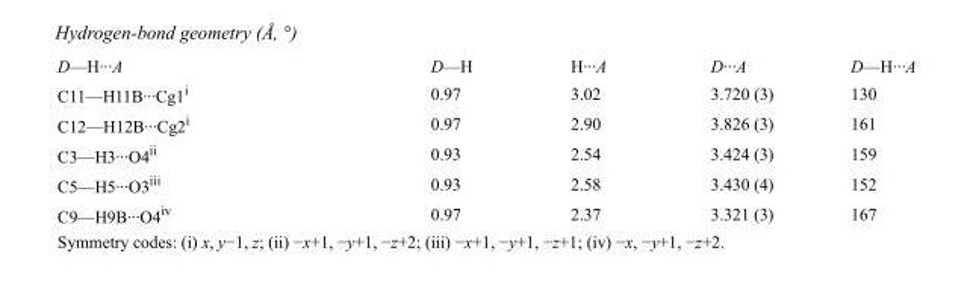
<table><tbody><tr><td>D—H···A</td><td>D—H</td><td>H···A</td><td>D···A</td><td>D—H···A</td></tr><tr><td>C11—H11B···Cg1<sup>i</sup></td><td>0.97</td><td>3.02</td><td>3.720 (3)</td><td>130</td></tr><tr><td>C12—H12B···Cg2<sup>i</sup></td><td>0.97</td><td>2.90</td><td>3.826 (3)</td><td>161</td></tr><tr><td>C3—H3···O4<sup>ii</sup></td><td>0.93</td><td>2.54</td><td>3.424 (3)</td><td>159</td></tr><tr><td>C5—H5···O3<sup>iii</sup></td><td>0.93</td><td>2.58</td><td>3.430 (4)</td><td>152</td></tr><tr><td>C9—H9B···O4<sup>iv</sup></td><td>0.97</td><td>2.37</td><td>3.321 (3)</td><td>167</td></tr></tbody></table>